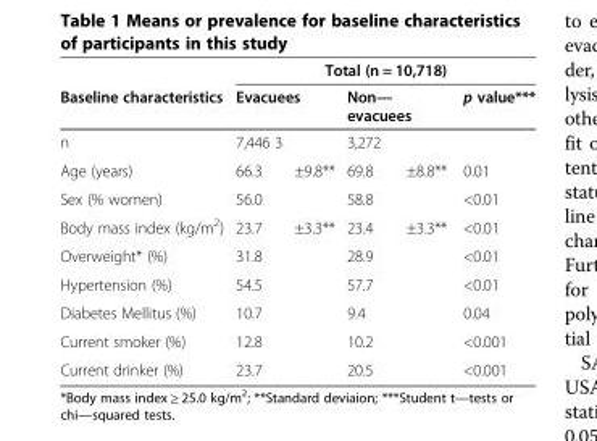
<table><thead><tr><td rowspan="3">Baseline characteristics n</td><td colspan="5">Total (n = 10,718)</td></tr><tr><td colspan="2">Evacuees</td><td colspan="2">Non— evacuees</td><td rowspan="2">p value***</td></tr><tr><td>7,446 3</td><td></td><td>3,272</td><td></td></tr></thead><tbody><tr><td>Age (years)</td><td>66.3</td><td>±9.8**</td><td>69.8</td><td>±8.8**</td><td>0.01</td></tr><tr><td>Sex (% women)</td><td>56.0</td><td></td><td>58.8</td><td></td><td>&lt;0.01</td></tr><tr><td>Body mass index (kg/m<sup>2</sup>)</td><td>23.7</td><td>±3.3**</td><td>23.4</td><td>±3.3**</td><td>&lt;0.01</td></tr><tr><td>Overweight* (%)</td><td>31.8</td><td></td><td>28.9</td><td></td><td>&lt;0.01</td></tr><tr><td>Hypertension (%)</td><td>54.5</td><td></td><td>57.7</td><td></td><td>&lt;0.01</td></tr><tr><td>Diabetes Mellitus (%)</td><td>10.7</td><td></td><td>9.4</td><td></td><td>0.04</td></tr><tr><td>Current smoker (%)</td><td>12.8</td><td></td><td>10.2</td><td></td><td>&lt;0.001</td></tr><tr><td>Current drinker (%)</td><td>23.7</td><td></td><td>20.5</td><td></td><td>&lt;0.001</td></tr></tbody></table>